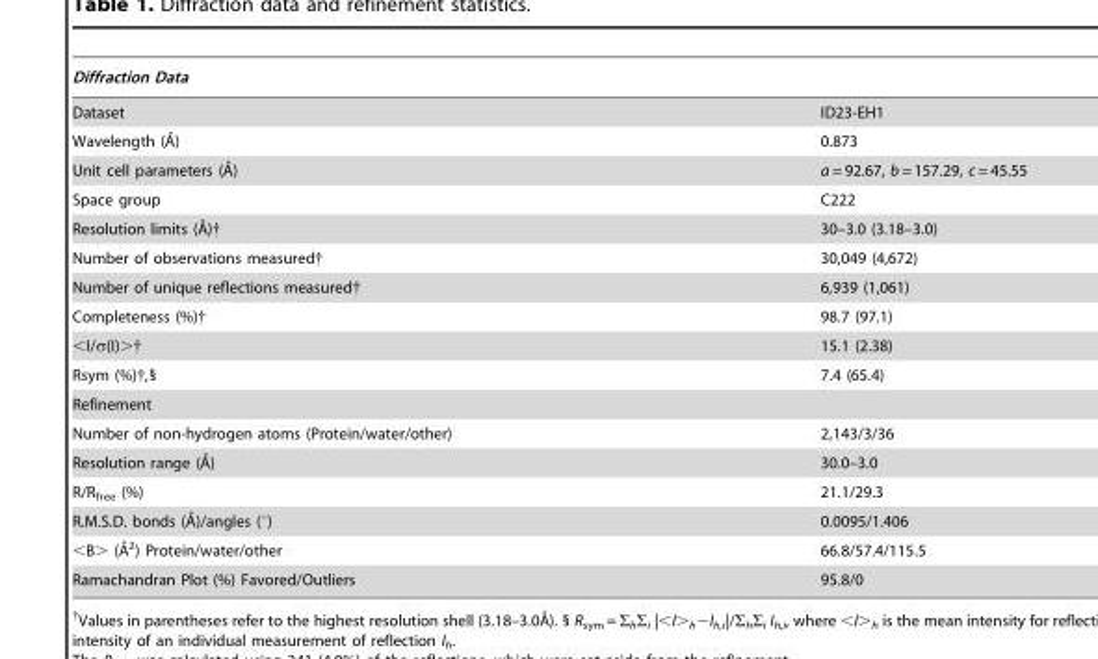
<table><thead><tr><td>Diffraction Data</td><td></td></tr></thead><tbody><tr><td>Dataset</td><td>ID23-EH1</td></tr><tr><td>Wavelength (A˚)</td><td>0.873</td></tr><tr><td>Unit cell parameters (A˚)</td><td>a = 92.67, b = 157.29, c = 45.55</td></tr><tr><td>Space group</td><td>C222</td></tr><tr><td>Resolution limits (A˚){</td><td>30–3.0 (3.18–3.0)</td></tr><tr><td>Number of observations measured†</td><td>30,049 (4,672)</td></tr><tr><td>Number of unique reflections measured†</td><td>6,939 (1,061)</td></tr><tr><td>Completeness (%)†</td><td>98.7 (97.1)</td></tr><tr><td>&lt;I/σ(I)&gt;†</td><td>15.1 (2.38)</td></tr><tr><td>Rsym (%)†,§</td><td>7.4 (65.4)</td></tr><tr><td colspan="2">Refinement</td></tr><tr><td>Number of non-hydrogen atoms (Protein/water/other)</td><td>2,143/3/36</td></tr><tr><td>Resolution range (A˚)</td><td>30.0–3.0</td></tr><tr><td>R/R<sub>free</sub> (%)</td><td>21.1/29.3</td></tr><tr><td>R.M.S.D. bonds (A˚)/angles (u)</td><td>0.0095/1.406</td></tr><tr><td>,B. (A˚2) Protein/water/other</td><td>66.8/57.4/115.5</td></tr><tr><td>Ramachandran Plot (%) Favored/Outliers</td><td>95.8/0</td></tr></tbody></table>